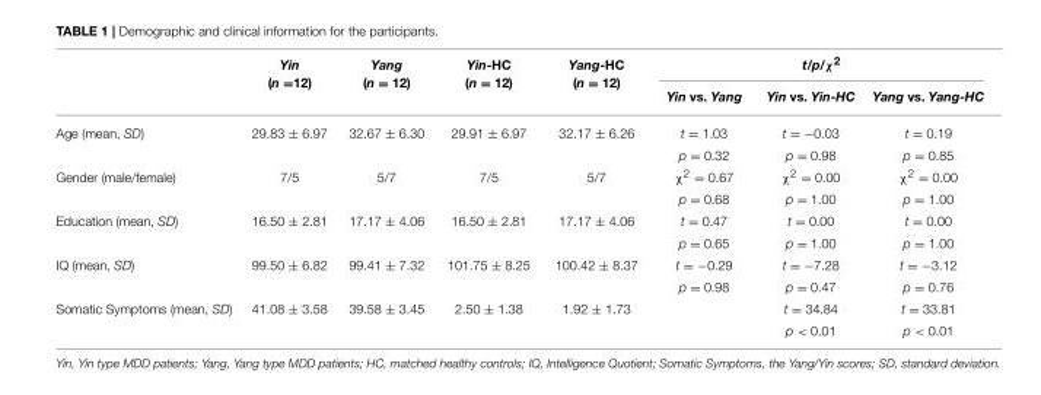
<table><thead><tr><td rowspan="2"></td><td rowspan="2">Yin (n =12)</td><td rowspan="2">Yang (n = 12)</td><td rowspan="2">Yin-HC (n = 12)</td><td rowspan="2">Yang-HC (n = 12)</td><td colspan="3">t/p/χ2</td></tr><tr><td>Yin vs. Yang</td><td>Yin vs. Yin-HC</td><td>Yang vs. Yang-HC</td></tr></thead><tbody><tr><td rowspan="2">Age (mean, SD)</td><td>29.83 ± 6.97</td><td>32.67 ± 6.30</td><td>29.91 ± 6.97</td><td>32.17 ± 6.26</td><td>t = 1.03</td><td>t = −0.03</td><td>t = 0.19</td></tr><tr><td></td><td></td><td></td><td></td><td>p = 0.32</td><td>p = 0.98</td><td>p = 0.85</td></tr><tr><td rowspan="2">Gender (male/female)</td><td>7/5</td><td>5/7</td><td>7/5</td><td>5/7</td><td>χ<sup>2</sup> = 0.67</td><td>χ<sup>2</sup> = 0.00</td><td>χ<sup>2</sup> = 0.00</td></tr><tr><td></td><td></td><td></td><td></td><td>p = 0.68</td><td>p = 1.00</td><td>p = 1.00</td></tr><tr><td rowspan="2">Education (mean, SD)</td><td>16.50 ± 2.81</td><td>17.17 ± 4.06</td><td>16.50 ± 2.81</td><td>17.17 ± 4.06</td><td>t = 0.47</td><td>t = 0.00</td><td>t = 0.00</td></tr><tr><td></td><td></td><td></td><td></td><td>p = 0.65</td><td>p = 1.00</td><td>p = 1.00</td></tr><tr><td rowspan="2">IQ (mean, SD)</td><td>99.50 ± 6.82</td><td>99.41 ± 7.32</td><td>101.75 ± 8.25</td><td>100.42 ± 8.37</td><td>t = −0.29</td><td>t = −7.28</td><td>t = −3.12</td></tr><tr><td></td><td></td><td></td><td></td><td>p = 0.98</td><td>p = 0.47</td><td>p = 0.76</td></tr><tr><td rowspan="2">Somatic Symptoms (mean, SD)</td><td>41.08 ± 3.58</td><td>39.58 ± 3.45</td><td>2.50 ± 1.38</td><td>1.92 ± 1.73</td><td></td><td>t = 34.84</td><td>t = 33.81</td></tr><tr><td></td><td></td><td></td><td></td><td></td><td>p &lt; 0.01</td><td>p &lt; 0.01</td></tr></tbody></table>